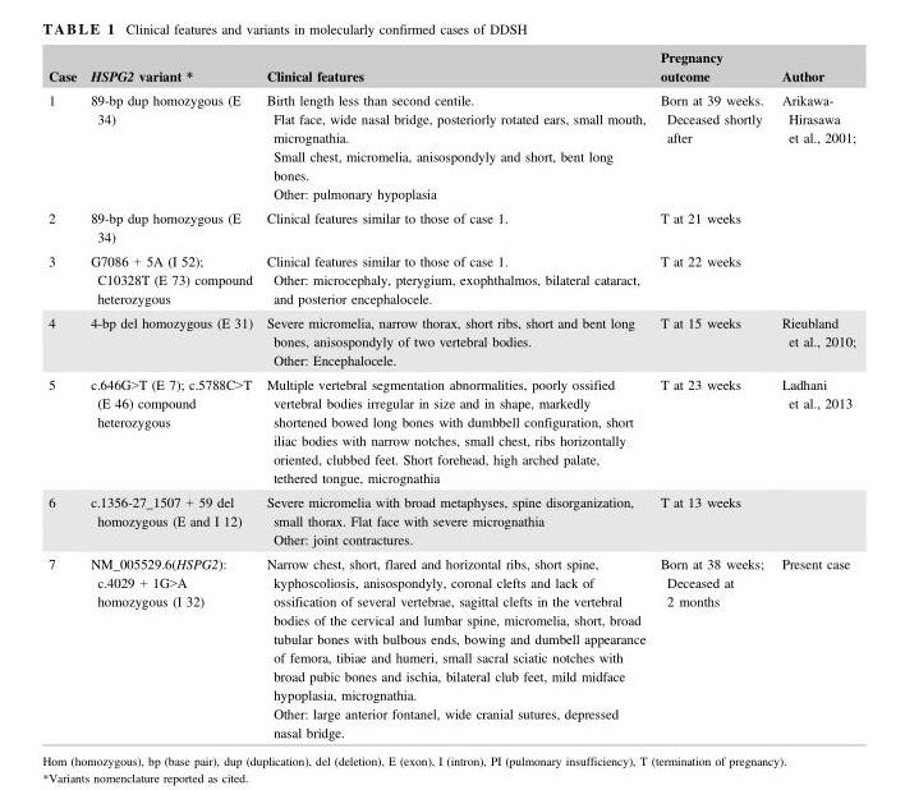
<table><thead><tr><td>Case</td><td>HSPG2 variant *</td><td>Clinical features</td><td>Pregnancy outcome</td><td>Author</td></tr></thead><tbody><tr><td>1</td><td>89-bp dup homozygous (E 34)</td><td>Birth length less than second centile. Flat face, wide nasal bridge, posteriorly rotated ears, small mouth, micrognathia. Small chest, micromelia, anisospondyly and short, bent long bones. Other: pulmonary hypoplasia</td><td>Born at 39 weeks. Deceased shortly after</td><td rowspan="3">Arikawa- Hirasawa et al., 2001;</td></tr><tr><td>2</td><td>89-bp dup homozygous (E 34)</td><td>Clinical features similar to those of case 1.</td><td>T at 21 weeks</td></tr><tr><td>3</td><td>G7086 + 5A (I 52); C10328T (E 73) compound heterozygous</td><td>Clinical features similar to those of case 1. Other: microcephaly, pterygium, exophthalmos, bilateral cataract, and posterior encephalocele.</td><td>T at 22 weeks</td></tr><tr><td>4</td><td>4-bp del homozygous (E 31)</td><td>Severe micromelia, narrow thorax, short ribs, short and bent long bones, anisospondyly of two vertebral bodies. Other: Encephalocele.</td><td>T at 15 weeks</td><td>Rieubland et al., 2010;</td></tr><tr><td>5</td><td>c.646G&gt;T (E 7); c.5788C&gt;T (E 46) compound heterozygous</td><td>Multiple vertebral segmentation abnormalities, poorly ossified vertebral bodies irregular in size and in shape, markedly shortened bowed long bones with dumbbell configuration, short iliac bodies with narrow notches, small chest, ribs horizontally oriented, clubbed feet. Short forehead, high arched palate, tethered tongue, micrognathia</td><td>T at 23 weeks</td><td>Ladhani et al., 2013</td></tr><tr><td>6</td><td>c.1356-27_1507 + 59 del homozygous (E and I 12)</td><td>Severe micromelia with broad metaphyses, spine disorganization, small thorax. Flat face with severe micrognathia Other: joint contractures.</td><td>T at 13 weeks</td><td></td></tr><tr><td>7</td><td>NM_005529.6(HSPG2): c.4029 + 1G&gt;A homozygous (I 32)</td><td>Narrow chest, short, flared and horizontal ribs, short spine, kyphoscoliosis, anisospondyly, coronal clefts and lack of ossification of several vertebrae, sagittal clefts in the vertebral bodies of the cervical and lumbar spine, micromelia, short, broad tubular bones with bulbous ends, bowing and dumbell appearance of femora, tibiae and humeri, small sacral sciatic notches with broad pubic bones and ischia, bilateral club feet, mild midface hypoplasia, micrognathia. Other: large anterior fontanel, wide cranial sutures, depressed nasal bridge.</td><td>Born at 38 weeks; Deceased at 2 months</td><td>Present case</td></tr></tbody></table>